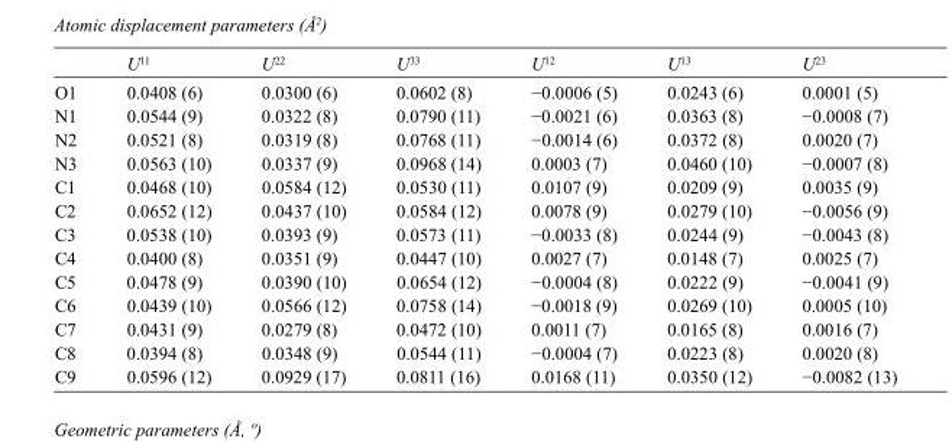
<table><thead><tr><td></td><td>U<sup>11</sup></td><td>U<sup>22</sup></td><td>U<sup>33</sup></td><td>U<sup>12</sup></td><td>U<sup>13</sup></td><td>U<sup>23</sup></td></tr></thead><tbody><tr><td>O1</td><td>0.0408 (6)</td><td>0.0300 (6)</td><td>0.0602 (8)</td><td>−0.0006 (5)</td><td>0.0243 (6)</td><td>0.0001 (5)</td></tr><tr><td>N1</td><td>0.0544 (9)</td><td>0.0322 (8)</td><td>0.0790 (11)</td><td>−0.0021 (6)</td><td>0.0363 (8)</td><td>−0.0008 (7)</td></tr><tr><td>N2</td><td>0.0521 (8)</td><td>0.0319 (8)</td><td>0.0768 (11)</td><td>−0.0014 (6)</td><td>0.0372 (8)</td><td>0.0020 (7)</td></tr><tr><td>N3</td><td>0.0563 (10)</td><td>0.0337 (9)</td><td>0.0968 (14)</td><td>0.0003 (7)</td><td>0.0460 (10)</td><td>−0.0007 (8)</td></tr><tr><td>C1</td><td>0.0468 (10)</td><td>0.0584 (12)</td><td>0.0530 (11)</td><td>0.0107 (9)</td><td>0.0209 (9)</td><td>0.0035 (9)</td></tr><tr><td>C2</td><td>0.0652 (12)</td><td>0.0437 (10)</td><td>0.0584 (12)</td><td>0.0078 (9)</td><td>0.0279 (10)</td><td>−0.0056 (9)</td></tr><tr><td>C3</td><td>0.0538 (10)</td><td>0.0393 (9)</td><td>0.0573 (11)</td><td>−0.0033 (8)</td><td>0.0244 (9)</td><td>−0.0043 (8)</td></tr><tr><td>C4</td><td>0.0400 (8)</td><td>0.0351 (9)</td><td>0.0447 (10)</td><td>0.0027 (7)</td><td>0.0148 (7)</td><td>0.0025 (7)</td></tr><tr><td>C5</td><td>0.0478 (9)</td><td>0.0390 (10)</td><td>0.0654 (12)</td><td>−0.0004 (8)</td><td>0.0222 (9)</td><td>−0.0041 (9)</td></tr><tr><td>C6</td><td>0.0439 (10)</td><td>0.0566 (12)</td><td>0.0758 (14)</td><td>−0.0018 (9)</td><td>0.0269 (10)</td><td>0.0005 (10)</td></tr><tr><td>C7</td><td>0.0431 (9)</td><td>0.0279 (8)</td><td>0.0472 (10)</td><td>0.0011 (7)</td><td>0.0165 (8)</td><td>0.0016 (7)</td></tr><tr><td>C8</td><td>0.0394 (8)</td><td>0.0348 (9)</td><td>0.0544 (11)</td><td>−0.0004 (7)</td><td>0.0223 (8)</td><td>0.0020 (8)</td></tr><tr><td>C9</td><td>0.0596 (12)</td><td>0.0929 (17)</td><td>0.0811 (16)</td><td>0.0168 (11)</td><td>0.0350 (12)</td><td>−0.0082 (13)</td></tr></tbody></table>